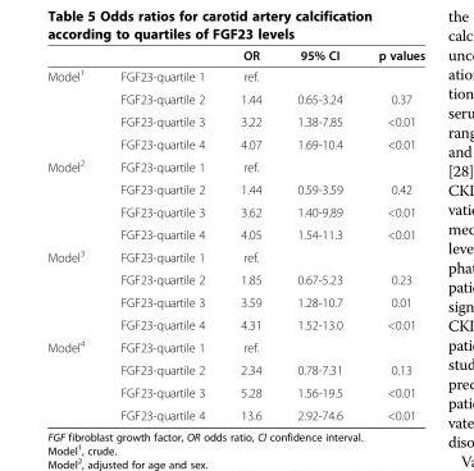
<table><thead><tr><td></td><td></td><td>OR</td><td>95% CI</td><td>p values</td></tr></thead><tbody><tr><td rowspan="4">Model<sup>1</sup></td><td>FGF23-quartile 1</td><td>ref.</td><td></td><td></td></tr><tr><td>FGF23-quartile 2</td><td>1.44</td><td>0.65-3.24</td><td>0.37</td></tr><tr><td>FGF23-quartile 3</td><td>3.22</td><td>1.38-7.85</td><td>&lt;0.01</td></tr><tr><td>FGF23-quartile 4</td><td>4.07</td><td>1.69-10.4</td><td>&lt;0.01</td></tr><tr><td rowspan="4">Model<sup>2</sup></td><td>FGF23-quartile 1</td><td>ref.</td><td></td><td></td></tr><tr><td>FGF23-quartile 2</td><td>1.44</td><td>0.59-3.59</td><td>0.42</td></tr><tr><td>FGF23-quartile 3</td><td>3.62</td><td>1.40-9.89</td><td>&lt;0.01</td></tr><tr><td>FGF23-quartile 4</td><td>4.05</td><td>1.54-11.3</td><td>&lt;0.01</td></tr><tr><td rowspan="4">Model<sup>3</sup></td><td>FGF23-quartile 1</td><td>ref.</td><td></td><td></td></tr><tr><td>FGF23-quartile 2</td><td>1.85</td><td>0.67-5.23</td><td>0.23</td></tr><tr><td>FGF23-quartile 3</td><td>3.59</td><td>1.28-10.7</td><td>0.01</td></tr><tr><td>FGF23-quartile 4</td><td>4.31</td><td>1.52-13.0</td><td>&lt;0.01</td></tr><tr><td rowspan="4">Model<sup>4</sup></td><td>FGF23-quartile 1</td><td>ref.</td><td></td><td></td></tr><tr><td>FGF23-quartile 2</td><td>2.34</td><td>0.78-7.31</td><td>0.13</td></tr><tr><td>FGF23-quartile 3</td><td>5.28</td><td>1.56-19.5</td><td>&lt;0.01</td></tr><tr><td>FGF23-quartile 4</td><td>13.6</td><td>2.92-74.6</td><td>&lt;0.01</td></tr></tbody></table>